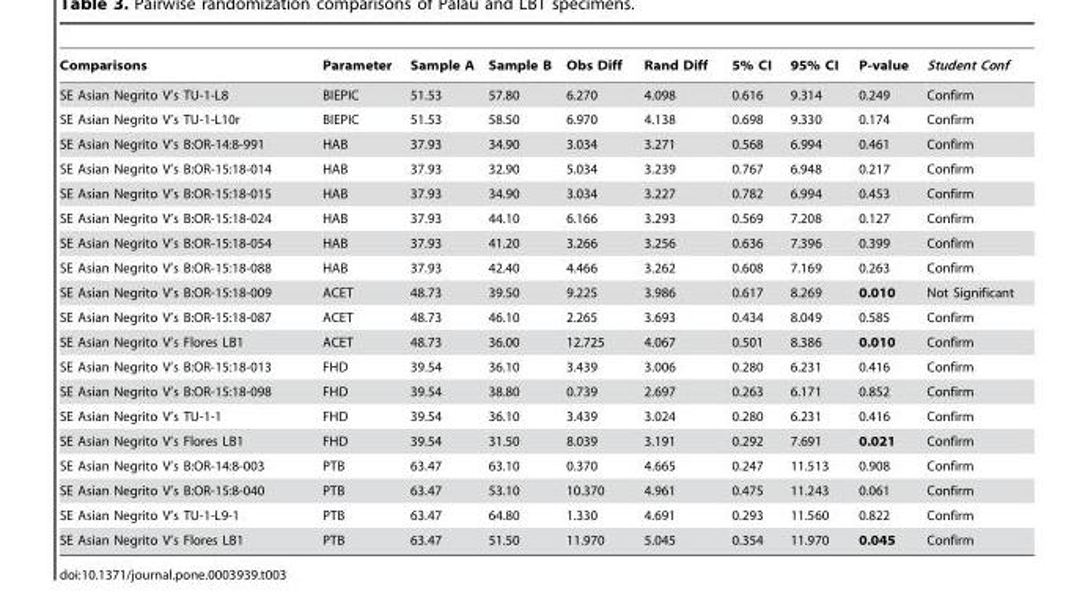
<table><thead><tr><td>Comparisons</td><td>Parameter</td><td>Sample A</td><td>Sample B</td><td>Obs Diff</td><td>Rand Diff</td><td>5% CI</td><td>95% CI</td><td>P-value</td><td>Student Conf</td></tr></thead><tbody><tr><td>SE Asian Negrito V’s TU-1-L8</td><td>BIEPIC</td><td>51.53</td><td>57.80</td><td>6.270</td><td>4.098</td><td>0.616</td><td>9.314</td><td>0.249</td><td>Confirm</td></tr><tr><td>SE Asian Negrito V’s TU-1-L10r</td><td>BIEPIC</td><td>51.53</td><td>58.50</td><td>6.970</td><td>4.138</td><td>0.698</td><td>9.330</td><td>0.174</td><td>Confirm</td></tr><tr><td>SE Asian Negrito V’s B:OR-14:8-991</td><td>HAB</td><td>37.93</td><td>34.90</td><td>3.034</td><td>3.271</td><td>0.568</td><td>6.994</td><td>0.461</td><td>Confirm</td></tr><tr><td>SE Asian Negrito V’s B:OR-15:18-014</td><td>HAB</td><td>37.93</td><td>32.90</td><td>5.034</td><td>3.239</td><td>0.767</td><td>6.948</td><td>0.217</td><td>Confirm</td></tr><tr><td>SE Asian Negrito V’s B:OR-15:18-015</td><td>HAB</td><td>37.93</td><td>34.90</td><td>3.034</td><td>3.227</td><td>0.782</td><td>6.994</td><td>0.453</td><td>Confirm</td></tr><tr><td>SE Asian Negrito V’s B:OR-15:18-024</td><td>HAB</td><td>37.93</td><td>44.10</td><td>6.166</td><td>3.293</td><td>0.569</td><td>7.208</td><td>0.127</td><td>Confirm</td></tr><tr><td>SE Asian Negrito V’s B:OR-15:18-054</td><td>HAB</td><td>37.93</td><td>41.20</td><td>3.266</td><td>3.256</td><td>0.636</td><td>7.396</td><td>0.399</td><td>Confirm</td></tr><tr><td>SE Asian Negrito V’s B:OR-15:18-088</td><td>HAB</td><td>37.93</td><td>42.40</td><td>4.466</td><td>3.262</td><td>0.608</td><td>7.169</td><td>0.263</td><td>Confirm</td></tr><tr><td>SE Asian Negrito V’s B:OR-15:18-009</td><td>ACET</td><td>48.73</td><td>39.50</td><td>9.225</td><td>3.986</td><td>0.617</td><td>8.269</td><td>0.010</td><td>Not Significant</td></tr><tr><td>SE Asian Negrito V’s B:OR-15:18-087</td><td>ACET</td><td>48.73</td><td>46.10</td><td>2.265</td><td>3.693</td><td>0.434</td><td>8.049</td><td>0.585</td><td>Confirm</td></tr><tr><td>SE Asian Negrito V’s Flores LB1</td><td>ACET</td><td>48.73</td><td>36.00</td><td>12.725</td><td>4.067</td><td>0.501</td><td>8.386</td><td>0.010</td><td>Confirm</td></tr><tr><td>SE Asian Negrito V’s B:OR-15:18-013</td><td>FHD</td><td>39.54</td><td>36.10</td><td>3.439</td><td>3.006</td><td>0.280</td><td>6.231</td><td>0.416</td><td>Confirm</td></tr><tr><td>SE Asian Negrito V’s B:OR-15:18-098</td><td>FHD</td><td>39.54</td><td>38.80</td><td>0.739</td><td>2.697</td><td>0.263</td><td>6.171</td><td>0.852</td><td>Confirm</td></tr><tr><td>SE Asian Negrito V’s TU-1-1</td><td>FHD</td><td>39.54</td><td>36.10</td><td>3.439</td><td>3.024</td><td>0.280</td><td>6.231</td><td>0.416</td><td>Confirm</td></tr><tr><td>SE Asian Negrito V’s Flores LB1</td><td>FHD</td><td>39.54</td><td>31.50</td><td>8.039</td><td>3.191</td><td>0.292</td><td>7.691</td><td>0.021</td><td>Confirm</td></tr><tr><td>SE Asian Negrito V’s B:OR-14:8-003</td><td>PTB</td><td>63.47</td><td>63.10</td><td>0.370</td><td>4.665</td><td>0.247</td><td>11.513</td><td>0.908</td><td>Confirm</td></tr><tr><td>SE Asian Negrito V’s B:OR-15:8-040</td><td>PTB</td><td>63.47</td><td>53.10</td><td>10.370</td><td>4.961</td><td>0.475</td><td>11.243</td><td>0.061</td><td>Confirm</td></tr><tr><td>SE Asian Negrito V’s TU-1-L9-1</td><td>PTB</td><td>63.47</td><td>64.80</td><td>1.330</td><td>4.691</td><td>0.293</td><td>11.560</td><td>0.822</td><td>Confirm</td></tr><tr><td>SE Asian Negrito V’s Flores LB1</td><td>PTB</td><td>63.47</td><td>51.50</td><td>11.970</td><td>5.045</td><td>0.354</td><td>11.970</td><td>0.045</td><td>Confirm</td></tr></tbody></table>